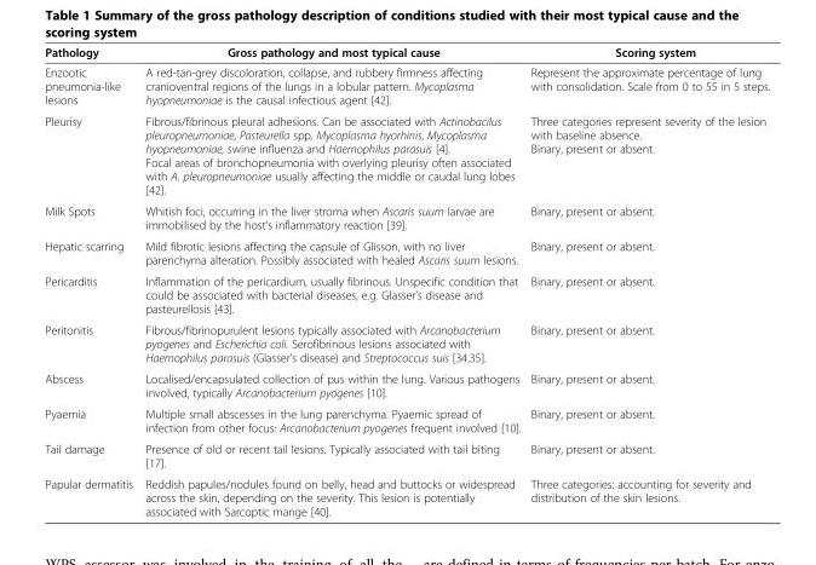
<table><thead><tr><td>Pathology</td><td>Gross pathology and most typical cause</td><td>Scoring system</td></tr></thead><tbody><tr><td>Enzootic pneumonia-like lesions</td><td>A red-tan-grey discoloration, collapse, and rubbery firmness affecting cranioventral regions of the lungs in a lobular pattern. Mycoplasma hyopneumoniae is the causal infectious agent [42].</td><td>Represent the approximate percentage of lung with consolidation. Scale from 0 to 55 in 5 steps.</td></tr><tr><td>Pleurisy</td><td>Fibrous/fibrinous pleural adhesions. Can be associated with Actinobacilus pleuropneumoniae, Pasteurella spp, Mycoplasma hyorhinis, Mycoplasma hyopneumoniae, swine influenza and Haemophilus parasuis [4]. Focal areas of bronchopneumonia with overlying pleurisy often associated with A. pleuropneumoniae usually affecting the middle or caudal lung lobes [42].</td><td>Three categories represent severity of the lesion with baseline absence. Binary, present or absent.</td></tr><tr><td>Milk Spots</td><td>Whitish foci, occurring in the liver stroma when Ascaris suum larvae are immobilised by the host’s inflammatory reaction [39].</td><td>Binary, present or absent.</td></tr><tr><td>Hepatic scarring</td><td>Mild fibrotic lesions affecting the capsule of Glisson, with no liver parenchyma alteration. Possibly associated with healed Ascaris suum lesions.</td><td>Binary, present or absent.</td></tr><tr><td>Pericarditis</td><td>Inflammation of the pericardium, usually fibrinous. Unspecific condition that could be associated with bacterial diseases, e.g. Glasser’s disease and pasteurellosis [43].</td><td>Binary, present or absent.</td></tr><tr><td>Peritonitis</td><td>Fibrous/fibrinopurulent lesions typically associated with Arcanobacterium pyogenes and Escherichia coli. Serofibrinous lesions associated with Haemophilus parasuis (Glasser’s disease) and Streptococcus suis [34,35].</td><td>Binary, present or absent.</td></tr><tr><td>Abscess</td><td>Localised/encapsulated collection of pus within the lung. Various pathogens involved, typically Arcanobacterium pyogenes [10].</td><td>Binary, present or absent.</td></tr><tr><td>Pyaemia</td><td>Multiple small abscesses in the lung parenchyma. Pyaemic spread of infection from other focus: Arcanobacterium pyogenes frequent involved [10].</td><td>Binary, present or absent.</td></tr><tr><td>Tail damage</td><td>Presence of old or recent tail lesions. Typically associated with tail biting [17].</td><td>Binary, present or absent.</td></tr><tr><td>Papular dermatitis</td><td>Reddish papules/nodules found on belly, head and buttocks or widespread across the skin, depending on the severity. This lesion is potentially associated with Sarcoptic mange [40].</td><td>Three categories: accounting for severity and distribution of the skin lesions.</td></tr></tbody></table>